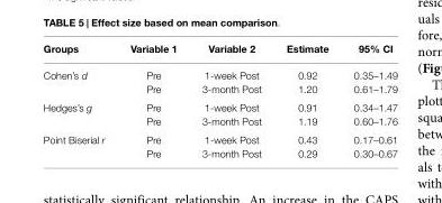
<table><thead><tr><td>Groups</td><td>Variable 1</td><td>Variable 2</td><td>Estimate</td><td>95% CI</td></tr></thead><tbody><tr><td rowspan="2">Cohen’s d</td><td>Pre</td><td>1-week Post</td><td>0.92</td><td>0.35–1.49</td></tr><tr><td>Pre</td><td>3-month Post</td><td>1.20</td><td>0.61–1.79</td></tr><tr><td rowspan="2">Hedges’s g</td><td>Pre</td><td>1-week Post</td><td>0.91</td><td>0.34–1.47</td></tr><tr><td>Pre</td><td>3-month Post</td><td>1.19</td><td>0.60–1.76</td></tr><tr><td rowspan="2">Point Biserial r</td><td>Pre</td><td>1-week Post</td><td>0.43</td><td>0.17–0.61</td></tr><tr><td>Pre</td><td>3-month Post</td><td>0.29</td><td>0.30–0.67</td></tr></tbody></table>